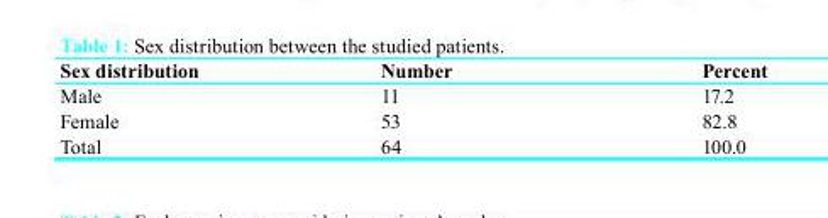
<table><thead><tr><td>Sex distribution</td><td>Number</td><td>Percent</td></tr></thead><tbody><tr><td>Male</td><td>11</td><td>17.2</td></tr><tr><td>Female</td><td>53</td><td>82.8</td></tr><tr><td>Total</td><td>64</td><td>100.0</td></tr></tbody></table>